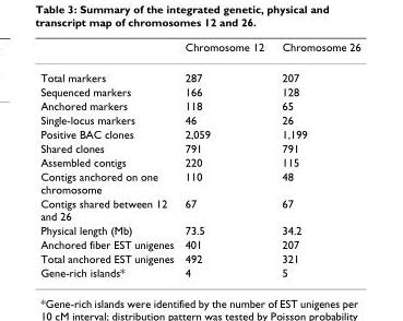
<table><thead><tr><td></td><td>Chromosome 12</td><td>Chromosome 26</td></tr></thead><tbody><tr><td>Total markers</td><td>287</td><td>207</td></tr><tr><td>Sequenced markers</td><td>166</td><td>128</td></tr><tr><td>Anchored markers</td><td>118</td><td>65</td></tr><tr><td>Single-locus markers</td><td>46</td><td>26</td></tr><tr><td>Positive BAC clones</td><td>2,059</td><td>1,199</td></tr><tr><td>Shared clones</td><td>791</td><td>791</td></tr><tr><td>Assembled contigs</td><td>220</td><td>115</td></tr><tr><td>Contigs anchored on one chromosome</td><td>110</td><td>48</td></tr><tr><td>Contigs shared between 12 and 26</td><td>67</td><td>67</td></tr><tr><td>Physical length (Mb)</td><td>73.5</td><td>34.2</td></tr><tr><td>Anchored fiber EST unigenes</td><td>401</td><td>207</td></tr><tr><td>Total anchored EST unigenes</td><td>492</td><td>321</td></tr><tr><td>Gene-rich islands*</td><td>4</td><td>5</td></tr></tbody></table>